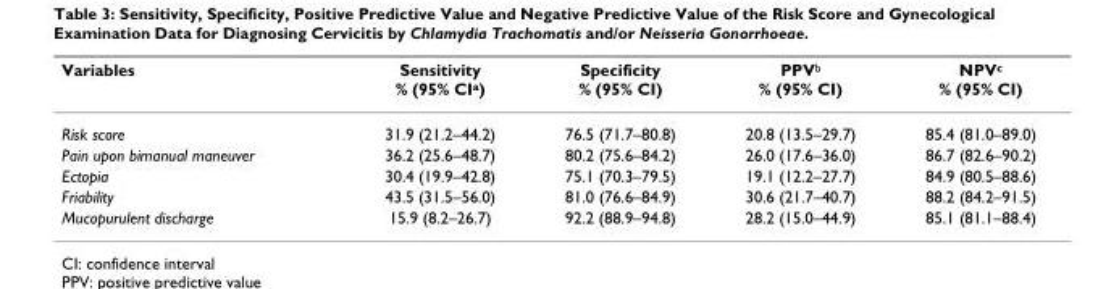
<table><thead><tr><td>Variables</td><td>Sensitivity % (95% CI<sup>a</sup>)</td><td>Specificity % (95% CI)</td><td>PPV<sup>b</sup> % (95% CI)</td><td>NPV<sup>c</sup> % (95% CI)</td></tr></thead><tbody><tr><td>Risk score</td><td>31.9 (21.2–44.2)</td><td>76.5 (71.7–80.8)</td><td>20.8 (13.5–29.7)</td><td>85.4 (81.0–89.0)</td></tr><tr><td>Pain upon bimanual maneuver</td><td>36.2 (25.6–48.7)</td><td>80.2 (75.6–84.2)</td><td>26.0 (17.6–36.0)</td><td>86.7 (82.6–90.2)</td></tr><tr><td>Ectopia</td><td>30.4 (19.9–42.8)</td><td>75.1 (70.3–79.5)</td><td>19.1 (12.2–27.7)</td><td>84.9 (80.5–88.6)</td></tr><tr><td>Friability</td><td>43.5 (31.5–56.0)</td><td>81.0 (76.6–84.9)</td><td>30.6 (21.7–40.7)</td><td>88.2 (84.2–91.5)</td></tr><tr><td>Mucopurulent discharge</td><td>15.9 (8.2–26.7)</td><td>92.2 (88.9–94.8)</td><td>28.2 (15.0–44.9)</td><td>85.1 (81.1–88.4)</td></tr></tbody></table>